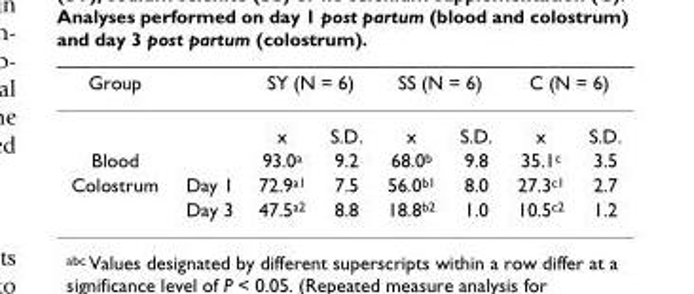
<table><thead><tr><td rowspan="2">Group</td><td rowspan="2"></td><td colspan="2">SY (N = 6)</td><td colspan="2">SS (N = 6)</td><td colspan="2">C (N = 6)</td></tr><tr><td>x</td><td>S.D.</td><td>x</td><td>S.D.</td><td>x</td><td>S.D.</td></tr></thead><tbody><tr><td>Blood</td><td></td><td>93.0<sup>a</sup></td><td>9.2</td><td>68.0<sup>b</sup></td><td>9.8</td><td>35.1<sup>c</sup></td><td>3.5</td></tr><tr><td rowspan="2">Colostrum</td><td>Day 1</td><td>72.9<sup>a1</sup></td><td>7.5</td><td>56.0<sup>b1</sup></td><td>8.0</td><td>27.3<sup>c1</sup></td><td>2.7</td></tr><tr><td>Day 3</td><td>47.5<sup>a2</sup></td><td>8.8</td><td>18.8<sup>b2</sup></td><td>1.0</td><td>10.5<sup>c2</sup></td><td>1.2</td></tr></tbody></table>